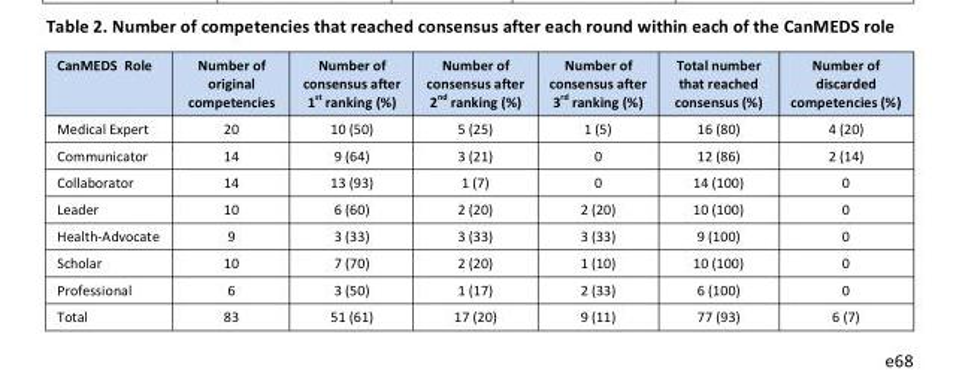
<table><thead><tr><td>CanMEDS Role</td><td>Number of original competencies</td><td>Number of consensus after 1 <sup>st</sup> ranking (%)</td><td>Number of consensus after 2 <sup>nd</sup> ranking (%)</td><td>Number of consensus after 3 <sup>rd</sup> ranking (%)</td><td>Total number that reached consensus (%)</td><td>Number of discarded competencies (%)</td></tr></thead><tbody><tr><td>Medical Expert</td><td>20</td><td>10 (50)</td><td>5 (25)</td><td>1 (5)</td><td>16 (80)</td><td>4 (20)</td></tr><tr><td>Communicator</td><td>14</td><td>9 (64)</td><td>3 (21)</td><td>0</td><td>12 (86)</td><td>2 (14)</td></tr><tr><td>Collaborator</td><td>14</td><td>13 (93)</td><td>1 (7)</td><td>0</td><td>14 (100)</td><td>0</td></tr><tr><td>Leader</td><td>10</td><td>6 (60)</td><td>2 (20)</td><td>2 (20)</td><td>10 (100)</td><td>0</td></tr><tr><td>Health-Advocate</td><td>9</td><td>3 (33)</td><td>3 (33)</td><td>3 (33)</td><td>9 (100)</td><td>0</td></tr><tr><td>Scholar</td><td>10</td><td>7 (70)</td><td>2 (20)</td><td>1 (10)</td><td>10 (100)</td><td>0</td></tr><tr><td>Professional</td><td>6</td><td>3 (50)</td><td>1 (17)</td><td>2 (33)</td><td>6 (100)</td><td>0</td></tr><tr><td>Total</td><td>83</td><td>51 (61)</td><td>17 (20)</td><td>9 (11)</td><td>77 (93)</td><td>6 (7)</td></tr></tbody></table>